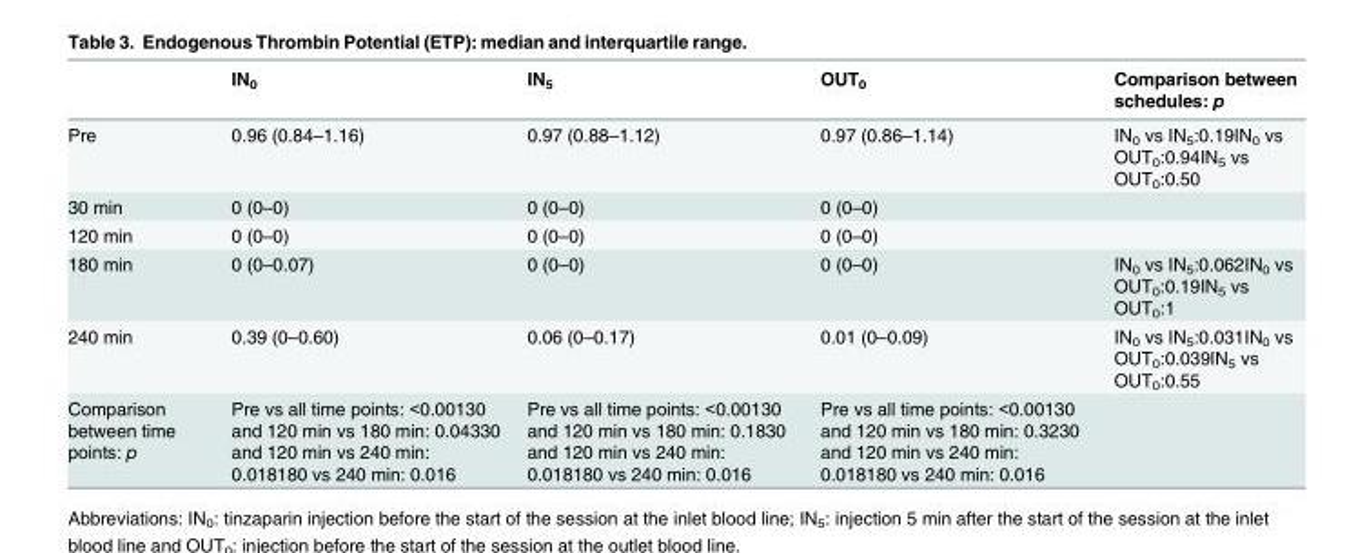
<table><thead><tr><td></td><td>IN<sub>0</sub></td><td>IN<sub>5</sub></td><td>OUT<sub>0</sub></td><td>Comparison between schedules: p</td></tr></thead><tbody><tr><td>Pre</td><td>0.96 (0.84–1.16)</td><td>0.97 (0.88–1.12)</td><td>0.97 (0.86–1.14)</td><td>IN<sub>0</sub> vs IN<sub>5</sub>:0.19IN<sub>0</sub> vs OUT<sub>0</sub>:0.94IN<sub>5</sub> vs OUT<sub>0</sub>:0.50</td></tr><tr><td>30 min</td><td>0 (0–0)</td><td>0 (0–0)</td><td>0 (0–0)</td><td></td></tr><tr><td>120 min</td><td>0 (0–0)</td><td>0 (0–0)</td><td>0 (0–0)</td><td></td></tr><tr><td>180 min</td><td>0 (0–0.07)</td><td>0 (0–0)</td><td>0 (0–0)</td><td>IN<sub>0</sub> vs IN<sub>5</sub>:0.062IN<sub>0</sub> vs OUT<sub>0</sub>:0.19IN<sub>5</sub> vs OUT<sub>0</sub>:1</td></tr><tr><td>240 min</td><td>0.39 (0–0.60)</td><td>0.06 (0–0.17)</td><td>0.01 (0–0.09)</td><td>IN<sub>0</sub> vs IN<sub>5</sub>:0.031IN<sub>0</sub> vs OUT<sub>0</sub>:0.039IN<sub>5</sub> vs OUT<sub>0</sub>:0.55</td></tr><tr><td>Comparison between time points: p</td><td>Pre vs all time points: &lt;0.00130 and 120 min vs 180 min: 0.04330 and 120 min vs 240 min: 0.018180 vs 240 min: 0.016</td><td>Pre vs all time points: &lt;0.00130 and 120 min vs 180 min: 0.1830 and 120 min vs 240 min: 0.018180 vs 240 min: 0.016</td><td>Pre vs all time points: &lt;0.00130 and 120 min vs 180 min: 0.3230 and 120 min vs 240 min: 0.018180 vs 240 min: 0.016</td><td></td></tr></tbody></table>